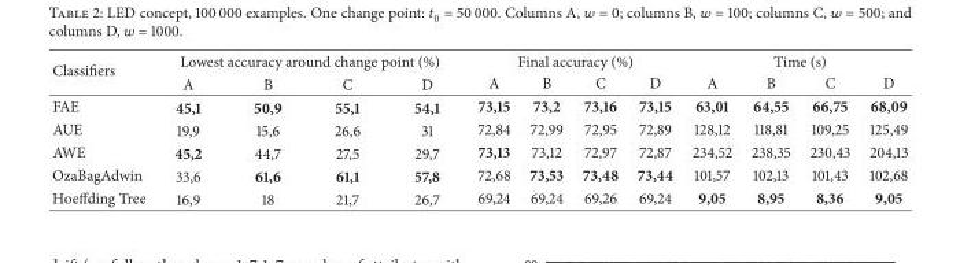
<table><thead><tr><td rowspan="2">Classifiers</td><td colspan="4">Lowest accuracy around change point (%)</td><td colspan="4">Final accuracy (%)</td><td colspan="4">Time (s)</td></tr><tr><td>A</td><td>B</td><td>C</td><td>D</td><td>A</td><td>B</td><td>C</td><td>D</td><td>A</td><td>B</td><td>C</td><td>D</td></tr></thead><tbody><tr><td>FAE</td><td>45,1</td><td>50,9</td><td>55,1</td><td>54,1</td><td>73,15</td><td>73,2</td><td>73,16</td><td>73,15</td><td>63,01</td><td>64,55</td><td>66,75</td><td>68,09</td></tr><tr><td>AUE</td><td>19,9</td><td>15,6</td><td>26,6</td><td>31</td><td>72,84</td><td>72,99</td><td>72,95</td><td>72,89</td><td>128,12</td><td>118,81</td><td>109,25</td><td>125,49</td></tr><tr><td>AWE</td><td>45,2</td><td>44,7</td><td>27,5</td><td>29,7</td><td>73,13</td><td>73,12</td><td>72,97</td><td>72,87</td><td>234,52</td><td>238,35</td><td>230,43</td><td>204,13</td></tr><tr><td>OzaBagAdwin</td><td>33,6</td><td>61,6</td><td>61,1</td><td>57,8</td><td>72,68</td><td>73,53</td><td>73,48</td><td>73,44</td><td>101,57</td><td>102,13</td><td>101,43</td><td>102,68</td></tr><tr><td>Hoeffding Tree</td><td>16,9</td><td>18</td><td>21,7</td><td>26,7</td><td>69,24</td><td>69,24</td><td>69,26</td><td>69,24</td><td>9,05</td><td>8,95</td><td>8,36</td><td>9,05</td></tr></tbody></table>